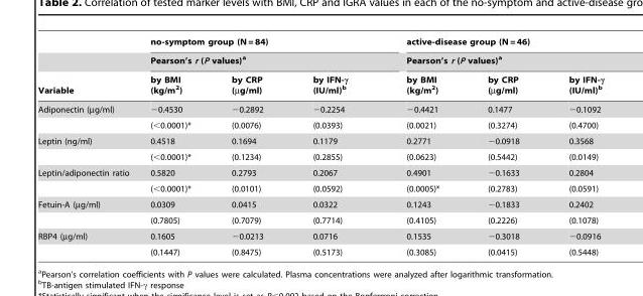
<table><thead><tr><td rowspan="3">Variable</td><td rowspan="2" colspan="3">no-symptom group (N = 84) Pearson’s r (P values)<sup>a</sup></td><td rowspan="2" colspan="3">active-disease group (N = 46) Pearson’s r (P values)<sup>a</sup></td></tr><tr></tr><tr><td>by BMI (kg/m<sup>2</sup>)</td><td>by CRP (µg/ml)</td><td>by IFN-γ (IU/ml)<sup>b</sup></td><td>by BMI (kg/m<sup>2</sup>)</td><td>by CRP (µg/ml)</td><td>by IFN-γ (IU/ml)<sup>b</sup></td></tr></thead><tbody><tr><td rowspan="2">Adiponectin (µg/ml)</td><td>−0.4530</td><td>−0.2892</td><td>−0.2254</td><td>−0.4421</td><td>0.1477</td><td>−0.1092</td></tr><tr><td>(&lt;0.0001)*</td><td>(0.0076)</td><td>(0.0393)</td><td>(0.0021)</td><td>(0.3274)</td><td>(0.4700)</td></tr><tr><td rowspan="2">Leptin (ng/ml)</td><td>0.4518</td><td>0.1694</td><td>0.1179</td><td>0.2771</td><td>−0.0918</td><td>0.3568</td></tr><tr><td>(&lt;0.0001)*</td><td>(0.1234)</td><td>(0.2855)</td><td>(0.0623)</td><td>(0.5442)</td><td>(0.0149)</td></tr><tr><td rowspan="2">Leptin/adiponectin ratio</td><td>0.5820</td><td>0.2793</td><td>0.2067</td><td>0.4901</td><td>−0.1633</td><td>0.2804</td></tr><tr><td>(&lt;0.0001)*</td><td>(0.0101)</td><td>(0.0592)</td><td>(0.0005)*</td><td>(0.2783)</td><td>(0.0591)</td></tr><tr><td rowspan="2">Fetuin-A (µg/ml)</td><td>0.0309</td><td>0.0415</td><td>0.0322</td><td>0.1243</td><td>−0.1833</td><td>0.2402</td></tr><tr><td>(0.7805)</td><td>(0.7079)</td><td>(0.7714)</td><td>(0.4105)</td><td>(0.2226)</td><td>(0.1078)</td></tr><tr><td rowspan="2">RBP4 (µg/ml)</td><td>0.1605</td><td>−0.0213</td><td>0.0716</td><td>0.1535</td><td>−0.3018</td><td>−0.0916</td></tr><tr><td>(0.1447)</td><td>(0.8475)</td><td>(0.5173)</td><td>(0.3085)</td><td>(0.0415)</td><td>(0.5448)</td></tr></tbody></table>